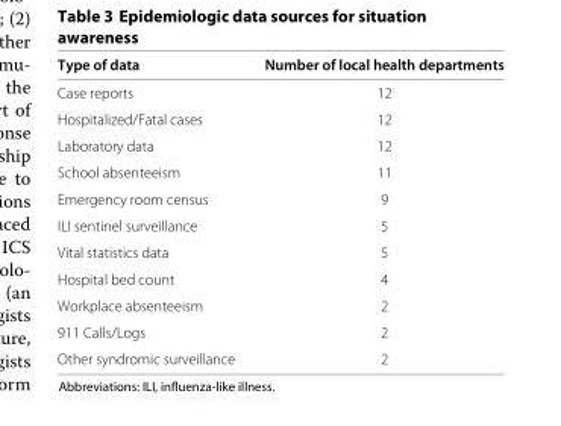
<table><thead><tr><td>Type of data</td><td>Number of local health departments</td></tr></thead><tbody><tr><td>Case reports</td><td>12</td></tr><tr><td>Hospitalized/Fatal cases</td><td>12</td></tr><tr><td>Laboratory data</td><td>12</td></tr><tr><td>School absenteeism</td><td>11</td></tr><tr><td>Emergency room census</td><td>9</td></tr><tr><td>ILI sentinel surveillance</td><td>5</td></tr><tr><td>Vital statistics data</td><td>5</td></tr><tr><td>Hospital bed count</td><td>4</td></tr><tr><td>Workplace absenteeism</td><td>2</td></tr><tr><td>911 Calls/Logs</td><td>2</td></tr><tr><td>Other syndromic surveillance</td><td>2</td></tr></tbody></table>